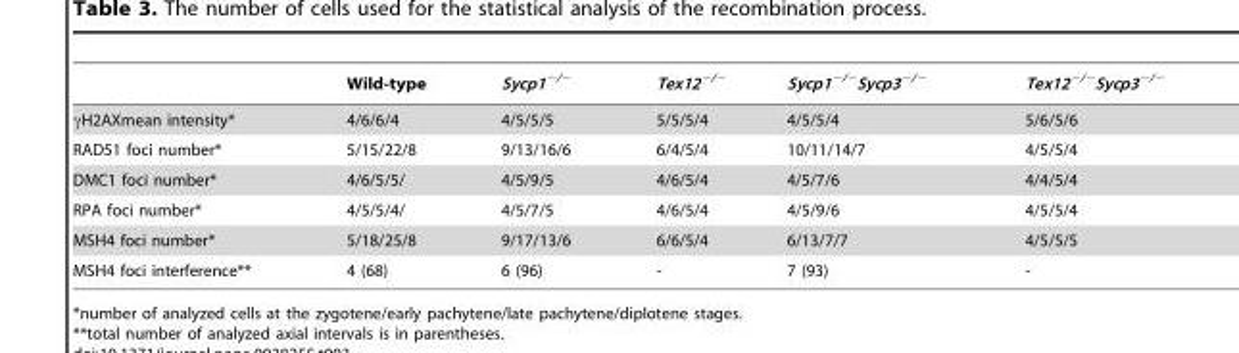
<table><thead><tr><td></td><td>Wild-type</td><td>Sycp1<sup>−/−</sup></td><td>Tex12<sup>−/−</sup></td><td>Sycp1<sup>−/−</sup>Sycp3<sup>−/−</sup></td><td>Tex12<sup>−/−</sup>Sycp3<sup>−/−</sup></td></tr></thead><tbody><tr><td>γH2AXmean intensity*</td><td>4/6/6/4</td><td>4/5/5/5</td><td>5/5/5/4</td><td>4/5/5/4</td><td>5/6/5/6</td></tr><tr><td>RAD51 foci number*</td><td>5/15/22/8</td><td>9/13/16/6</td><td>6/4/5/4</td><td>10/11/14/7</td><td>4/5/5/4</td></tr><tr><td>DMC1 foci number*</td><td>4/6/5/5/</td><td>4/5/9/5</td><td>4/6/5/4</td><td>4/5/7/6</td><td>4/4/5/4</td></tr><tr><td>RPA foci number*</td><td>4/5/5/4/</td><td>4/5/7/5</td><td>4/6/5/4</td><td>4/5/9/6</td><td>4/5/5/4</td></tr><tr><td>MSH4 foci number*</td><td>5/18/25/8</td><td>9/17/13/6</td><td>6/6/5/4</td><td>6/13/7/7</td><td>4/5/5/5</td></tr><tr><td>MSH4 foci interference**</td><td>4 (68)</td><td>6 (96)</td><td>-</td><td>7 (93)</td><td>-</td></tr></tbody></table>